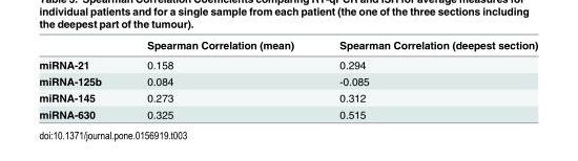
<table><thead><tr><td></td><td>Spearman Correlation (mean)</td><td>Spearman Correlation (deepest section)</td></tr></thead><tbody><tr><td>miRNA-21</td><td>0.158</td><td>0.294</td></tr><tr><td>miRNA-125b</td><td>0.084</td><td>-0.085</td></tr><tr><td>miRNA-145</td><td>0.273</td><td>0.312</td></tr><tr><td>miRNA-630</td><td>0.325</td><td>0.515</td></tr></tbody></table>